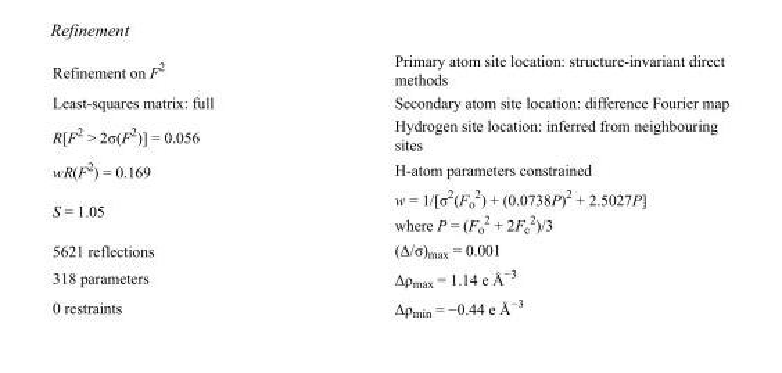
<table><tbody><tr><td>Refinement on F<sup>2</sup></td><td>Primary atom site location: structure-invariant direct methods</td></tr><tr><td>Least-squares matrix: full</td><td>Secondary atom site location: difference Fourier map</td></tr><tr><td>R[F<sup>2</sup> &gt; 2σ(F<sup>2</sup>)] = 0.056</td><td>Hydrogen site location: inferred from neighbouring sites</td></tr><tr><td>wR(F<sup>2</sup>) = 0.169</td><td>H-atom parameters constrained</td></tr><tr><td>S = 1.05</td><td>w = 1/[σ<sup>2</sup>(F<sub>o</sub> <sup>2</sup>) + (0.0738P)<sup>2</sup> + 2.5027P] where P = (F<sub>o</sub> <sup>2</sup> + 2F<sub>c</sub> <sup>2</sup>)/3</td></tr><tr><td>5621 reflections</td><td>(Δ/σ)<sub>max</sub> = 0.001</td></tr><tr><td>318 parameters</td><td>Δρ<sub>max</sub> = 1.14 e Å<sup>−3</sup></td></tr><tr><td>0 restraints</td><td>Δρ<sub>min</sub> = −0.44 e Å<sup>−3</sup></td></tr></tbody></table>